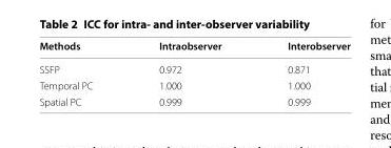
<table><thead><tr><td>Methods</td><td>Intraobserver</td><td>Interobserver</td></tr></thead><tbody><tr><td>SSFP</td><td>0.972</td><td>0.871</td></tr><tr><td>Temporal PC</td><td>1.000</td><td>1.000</td></tr><tr><td>Spatial PC</td><td>0.999</td><td>0.999</td></tr></tbody></table>